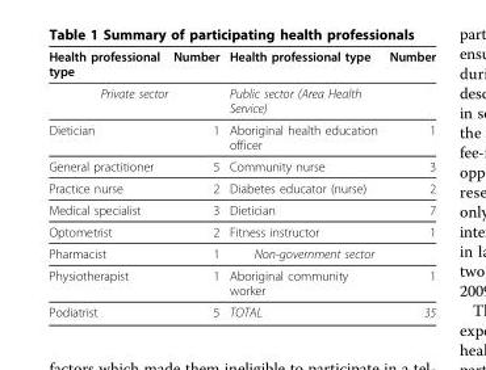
<table><thead><tr><td>Health professional type</td><td>Number</td><td>Health professional type</td><td>Number</td></tr></thead><tbody><tr><td colspan="2">Private sector</td><td>Public sector (Area Health Service)</td><td></td></tr><tr><td>Dietician</td><td>1</td><td>Aboriginal health education officer</td><td>1</td></tr><tr><td>General practitioner</td><td>5</td><td>Community nurse</td><td>3</td></tr><tr><td>Practice nurse</td><td>2</td><td>Diabetes educator (nurse)</td><td>2</td></tr><tr><td>Medical specialist</td><td>3</td><td>Dietician</td><td>7</td></tr><tr><td>Optometrist</td><td>2</td><td>Fitness instructor</td><td>1</td></tr><tr><td>Pharmacist</td><td>1</td><td>Non-government sector</td><td></td></tr><tr><td>Physiotherapist</td><td>1</td><td>Aboriginal community worker</td><td>1</td></tr><tr><td>Podiatrist</td><td>5</td><td>TOTAL</td><td>35</td></tr></tbody></table>